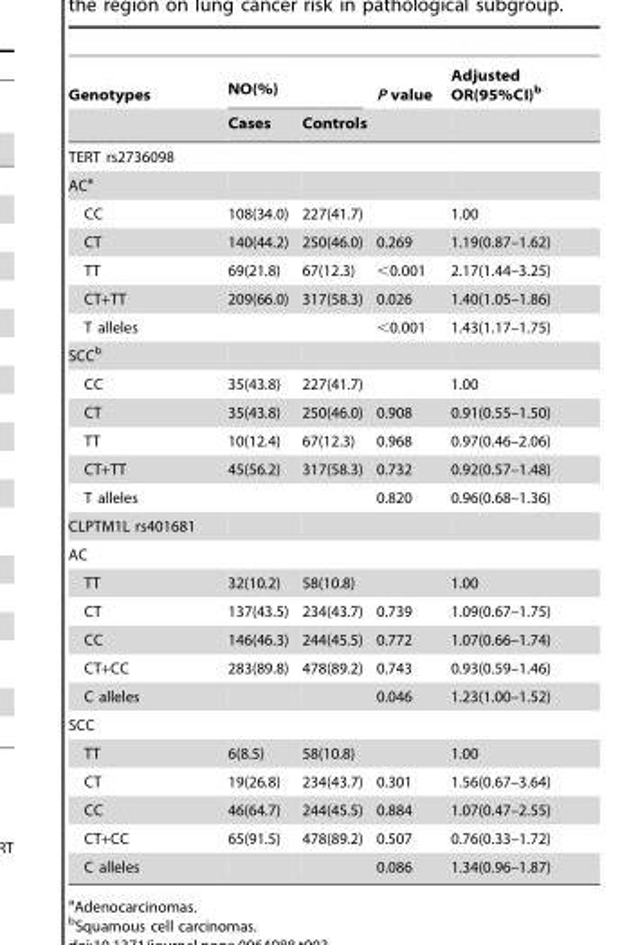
<table><thead><tr><td rowspan="2">Genotypes</td><td colspan="2">NO(%)</td><td rowspan="2">P value</td><td rowspan="2">Adjusted OR(95%CI)<sup>b</sup></td></tr><tr><td>Cases</td><td>Controls</td></tr></thead><tbody><tr><td colspan="5">TERT rs2736098</td></tr><tr><td colspan="5">AC<sup>a</sup></td></tr><tr><td>CC</td><td>108(34.0)</td><td>227(41.7)</td><td></td><td>1.00</td></tr><tr><td>CT</td><td>140(44.2)</td><td>250(46.0)</td><td>0.269</td><td>1.19(0.87–1.62)</td></tr><tr><td>TT</td><td>69(21.8)</td><td>67(12.3)</td><td>&lt;0.001</td><td>2.17(1.44–3.25)</td></tr><tr><td>CT+TT</td><td>209(66.0)</td><td>317(58.3)</td><td>0.026</td><td>1.40(1.05–1.86)</td></tr><tr><td>T alleles</td><td></td><td></td><td>&lt;0.001</td><td>1.43(1.17–1.75)</td></tr><tr><td colspan="5">SCC<sup>b</sup></td></tr><tr><td>CC</td><td>35(43.8)</td><td>227(41.7)</td><td></td><td>1.00</td></tr><tr><td>CT</td><td>35(43.8)</td><td>250(46.0)</td><td>0.908</td><td>0.91(0.55–1.50)</td></tr><tr><td>TT</td><td>10(12.4)</td><td>67(12.3)</td><td>0.968</td><td>0.97(0.46–2.06)</td></tr><tr><td>CT+TT</td><td>45(56.2)</td><td>317(58.3)</td><td>0.732</td><td>0.92(0.57–1.48)</td></tr><tr><td>T alleles</td><td></td><td></td><td>0.820</td><td>0.96(0.68–1.36)</td></tr><tr><td colspan="5">CLPTM1L rs401681</td></tr><tr><td colspan="5">AC</td></tr><tr><td>TT</td><td>32(10.2)</td><td>58(10.8)</td><td></td><td>1.00</td></tr><tr><td>CT</td><td>137(43.5)</td><td>234(43.7)</td><td>0.739</td><td>1.09(0.67–1.75)</td></tr><tr><td>CC</td><td>146(46.3)</td><td>244(45.5)</td><td>0.772</td><td>1.07(0.66–1.74)</td></tr><tr><td>CT+CC</td><td>283(89.8)</td><td>478(89.2)</td><td>0.743</td><td>0.93(0.59–1.46)</td></tr><tr><td>C alleles</td><td></td><td></td><td>0.046</td><td>1.23(1.00–1.52)</td></tr><tr><td colspan="5">SCC</td></tr><tr><td>TT</td><td>6(8.5)</td><td>58(10.8)</td><td></td><td>1.00</td></tr><tr><td>CT</td><td>19(26.8)</td><td>234(43.7)</td><td>0.301</td><td>1.56(0.67–3.64)</td></tr><tr><td>CC</td><td>46(64.7)</td><td>244(45.5)</td><td>0.884</td><td>1.07(0.47–2.55)</td></tr><tr><td>CT+CC</td><td>65(91.5)</td><td>478(89.2)</td><td>0.507</td><td>0.76(0.33–1.72)</td></tr><tr><td>C alleles</td><td></td><td></td><td>0.086</td><td>1.34(0.96–1.87)</td></tr></tbody></table>